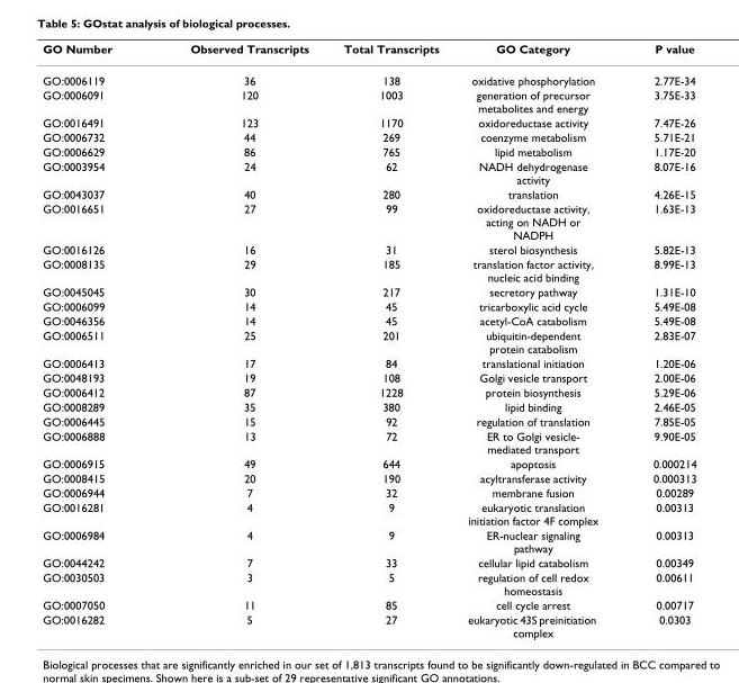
<table><thead><tr><td>GO Number</td><td>Observed Transcripts</td><td>Total Transcripts</td><td>GO Category</td><td>P value</td></tr></thead><tbody><tr><td>GO:0006119</td><td>36</td><td>138</td><td>oxidative phosphorylation</td><td>2.77E-34</td></tr><tr><td>GO:0006091</td><td>120</td><td>1003</td><td>generation of precursor metabolites and energy</td><td>3.75E-33</td></tr><tr><td>GO:0016491</td><td>123</td><td>1170</td><td>oxidoreductase activity</td><td>7.47E-26</td></tr><tr><td>GO:0006732</td><td>44</td><td>269</td><td>coenzyme metabolism</td><td>5.71E-21</td></tr><tr><td>GO:0006629</td><td>86</td><td>765</td><td>lipid metabolism</td><td>1.17E-20</td></tr><tr><td>GO:0003954</td><td>24</td><td>62</td><td>NADH dehydrogenase activity</td><td>8.07E-16</td></tr><tr><td>GO:0043037</td><td>40</td><td>280</td><td>translation</td><td>4.26E-15</td></tr><tr><td>GO:0016651</td><td>27</td><td>99</td><td>oxidoreductase activity, acting on NADH or NADPH</td><td>1.63E-13</td></tr><tr><td>GO:0016126</td><td>16</td><td>31</td><td>sterol biosynthesis</td><td>5.82E-13</td></tr><tr><td>GO:0008135</td><td>29</td><td>185</td><td>translation factor activity, nucleic acid binding</td><td>8.99E-13</td></tr><tr><td>GO:0045045</td><td>30</td><td>217</td><td>secretory pathway</td><td>1.31E-10</td></tr><tr><td>GO:0006099</td><td>14</td><td>45</td><td>tricarboxylic acid cycle</td><td>5.49E-08</td></tr><tr><td>GO:0046356</td><td>14</td><td>45</td><td>acetyl-CoA catabolism</td><td>5.49E-08</td></tr><tr><td>GO:0006511</td><td>25</td><td>201</td><td>ubiquitin-dependent protein catabolism</td><td>2.83E-07</td></tr><tr><td>GO:0006413</td><td>17</td><td>84</td><td>translational initiation</td><td>1.20E-06</td></tr><tr><td>GO:0048193</td><td>19</td><td>108</td><td>Golgi vesicle transport</td><td>2.00E-06</td></tr><tr><td>GO:0006412</td><td>87</td><td>1228</td><td>protein biosynthesis</td><td>5.29E-06</td></tr><tr><td>GO:0008289</td><td>35</td><td>380</td><td>lipid binding</td><td>2.46E-05</td></tr><tr><td>GO:0006445</td><td>15</td><td>92</td><td>regulation of translation</td><td>7.85E-05</td></tr><tr><td>GO:0006888</td><td>13</td><td>72</td><td>ER to Golgi vesicle- mediated transport</td><td>9.90E-05</td></tr><tr><td>GO:0006915</td><td>49</td><td>644</td><td>apoptosis</td><td>0.000214</td></tr><tr><td>GO:0008415</td><td>20</td><td>190</td><td>acyltransferase activity</td><td>0.000313</td></tr><tr><td>GO:0006944</td><td>7</td><td>32</td><td>membrane fusion</td><td>0.00289</td></tr><tr><td>GO:0016281</td><td>4</td><td>9</td><td>eukaryotic translation initiation factor 4F complex</td><td>0.00313</td></tr><tr><td>GO:0006984</td><td>4</td><td>9</td><td>ER-nuclear signaling pathway</td><td>0.00313</td></tr><tr><td>GO:0044242</td><td>7</td><td>33</td><td>cellular lipid catabolism</td><td>0.00349</td></tr><tr><td>GO:0030503</td><td>3</td><td>5</td><td>regulation of cell redox homeostasis</td><td>0.00611</td></tr><tr><td>GO:0007050</td><td>11</td><td>85</td><td>cell cycle arrest</td><td>0.00717</td></tr><tr><td>GO:0016282</td><td>5</td><td>27</td><td>eukaryotic 43S preinitiation complex</td><td>0.0303</td></tr></tbody></table>